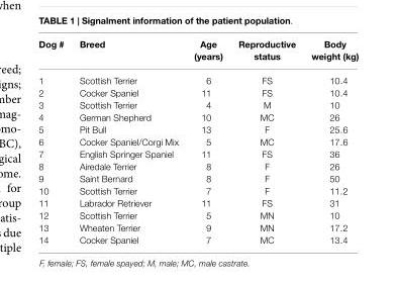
<table><thead><tr><td>Dog #</td><td>Breed</td><td>Age (years)</td><td>Reproductive status</td><td>Body weight (kg)</td></tr></thead><tbody><tr><td>1</td><td>Scottish Terrier</td><td>6</td><td>FS</td><td>10.4</td></tr><tr><td>2</td><td>Cocker Spaniel</td><td>11</td><td>FS</td><td>10.4</td></tr><tr><td>3</td><td>Scottish Terrier</td><td>4</td><td>M</td><td>10</td></tr><tr><td>4</td><td>German Shepherd</td><td>10</td><td>MC</td><td>26</td></tr><tr><td>5</td><td>Pit Bull</td><td>13</td><td>F</td><td>25.6</td></tr><tr><td>6</td><td>Cocker Spaniel/Corgi Mix</td><td>5</td><td>MC</td><td>17.6</td></tr><tr><td>7</td><td>English Springer Spaniel</td><td>11</td><td>FS</td><td>36</td></tr><tr><td>8</td><td>Airedale Terrier</td><td>8</td><td>F</td><td>26</td></tr><tr><td>9</td><td>Saint Bernard</td><td>8</td><td>F</td><td>50</td></tr><tr><td>10</td><td>Scottish Terrier</td><td>7</td><td>F</td><td>11.2</td></tr><tr><td>11</td><td>Labrador Retriever</td><td>11</td><td>FS</td><td>31</td></tr><tr><td>12</td><td>Scottish Terrier</td><td>5</td><td>MN</td><td>10</td></tr><tr><td>13</td><td>Wheaten Terrier</td><td>9</td><td>MN</td><td>17.2</td></tr><tr><td>14</td><td>Cocker Spaniel</td><td>7</td><td>MC</td><td>13.4</td></tr></tbody></table>